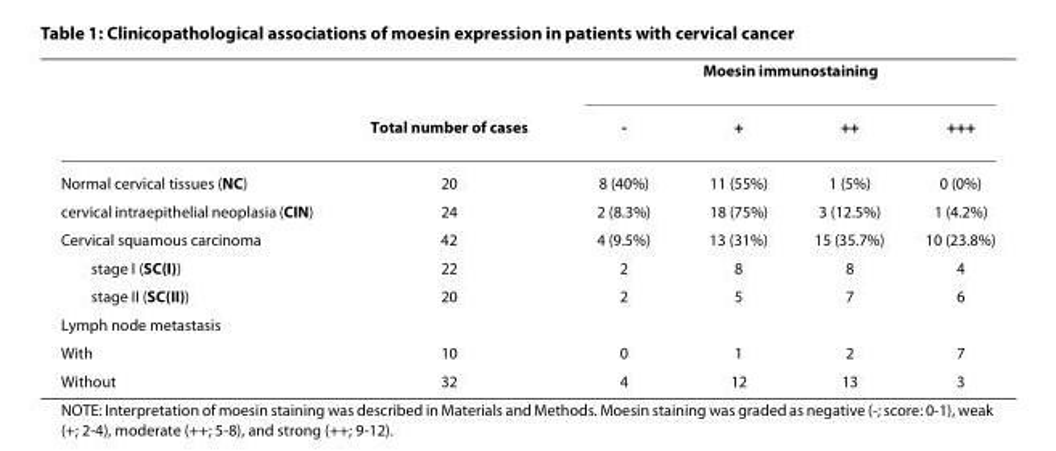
<table><thead><tr><td rowspan="2"></td><td rowspan="2">Total number of cases</td><td colspan="4">Moesin immunostaining</td></tr><tr><td>-</td><td>+</td><td>++</td><td>+++</td></tr></thead><tbody><tr><td>Normal cervical tissues (NC)</td><td>20</td><td>8 (40%)</td><td>11 (55%)</td><td>1 (5%)</td><td>0 (0%)</td></tr><tr><td>cervical intraepithelial neoplasia (CIN)</td><td>24</td><td>2 (8.3%)</td><td>18 (75%)</td><td>3 (12.5%)</td><td>1 (4.2%)</td></tr><tr><td>Cervical squamous carcinoma</td><td>42</td><td>4 (9.5%)</td><td>13 (31%)</td><td>15 (35.7%)</td><td>10 (23.8%)</td></tr><tr><td>stage I (SC(I))</td><td>22</td><td>2</td><td>8</td><td>8</td><td>4</td></tr><tr><td>stage II (SC(II))</td><td>20</td><td>2</td><td>5</td><td>7</td><td>6</td></tr><tr><td colspan="6">Lymph node metastasis</td></tr><tr><td>With</td><td>10</td><td>0</td><td>1</td><td>2</td><td>7</td></tr><tr><td>Without</td><td>32</td><td>4</td><td>12</td><td>13</td><td>3</td></tr></tbody></table>